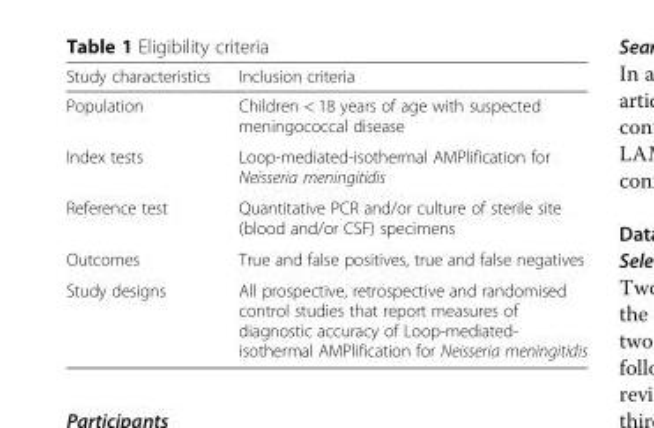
<table><thead><tr><td>Study characteristics</td><td>Inclusion criteria</td></tr></thead><tbody><tr><td>Population</td><td>Children &lt; 18 years of age with suspected meningococcal disease</td></tr><tr><td>Index tests</td><td>Loop-mediated-isothermal AMPlification for Neisseria meningitidis</td></tr><tr><td>Reference test</td><td>Quantitative PCR and/or culture of sterile site (blood and/or CSF) specimens</td></tr><tr><td>Outcomes</td><td>True and false positives, true and false negatives</td></tr><tr><td>Study designs</td><td>All prospective, retrospective and randomised control studies that report measures of diagnostic accuracy of Loop-mediated- isothermal AMPlification for Neisseria meningitidis</td></tr></tbody></table>